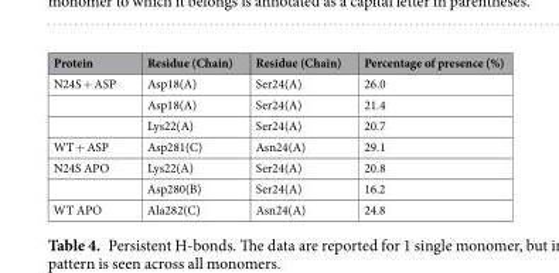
<table><thead><tr><td>Protein</td><td>Residue (Chain)</td><td>Residue (Chain)</td><td>Percentage of presence (%)</td></tr></thead><tbody><tr><td rowspan="3">N24S + ASP</td><td>Asp18(A)</td><td>Ser24(A)</td><td>26.0</td></tr><tr><td>Asp18(A)</td><td>Ser24(A)</td><td>21.4</td></tr><tr><td>Lys22(A)</td><td>Ser24(A)</td><td>20.7</td></tr><tr><td>WT + ASP</td><td>Asp281(C)</td><td>Asn24(A)</td><td>29.1</td></tr><tr><td rowspan="2">N24S APO</td><td>Lys22(A)</td><td>Ser24(A)</td><td>20.8</td></tr><tr><td>Asp280(B)</td><td>Ser24(A)</td><td>16.2</td></tr><tr><td>WT APO</td><td>Ala282(C)</td><td>Asn24(A)</td><td>24.8</td></tr></tbody></table>